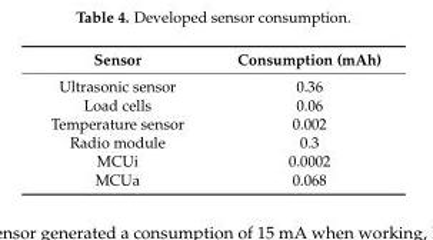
<table><thead><tr><td>Sensor</td><td>Consumption (mAh)</td></tr></thead><tbody><tr><td>Ultrasonic sensor</td><td>0.36</td></tr><tr><td>Load cells</td><td>0.06</td></tr><tr><td>Temperature sensor</td><td>0.002</td></tr><tr><td>Radio module</td><td>0.3</td></tr><tr><td>MCUi</td><td>0.0002</td></tr><tr><td>MCUa</td><td>0.068</td></tr></tbody></table>